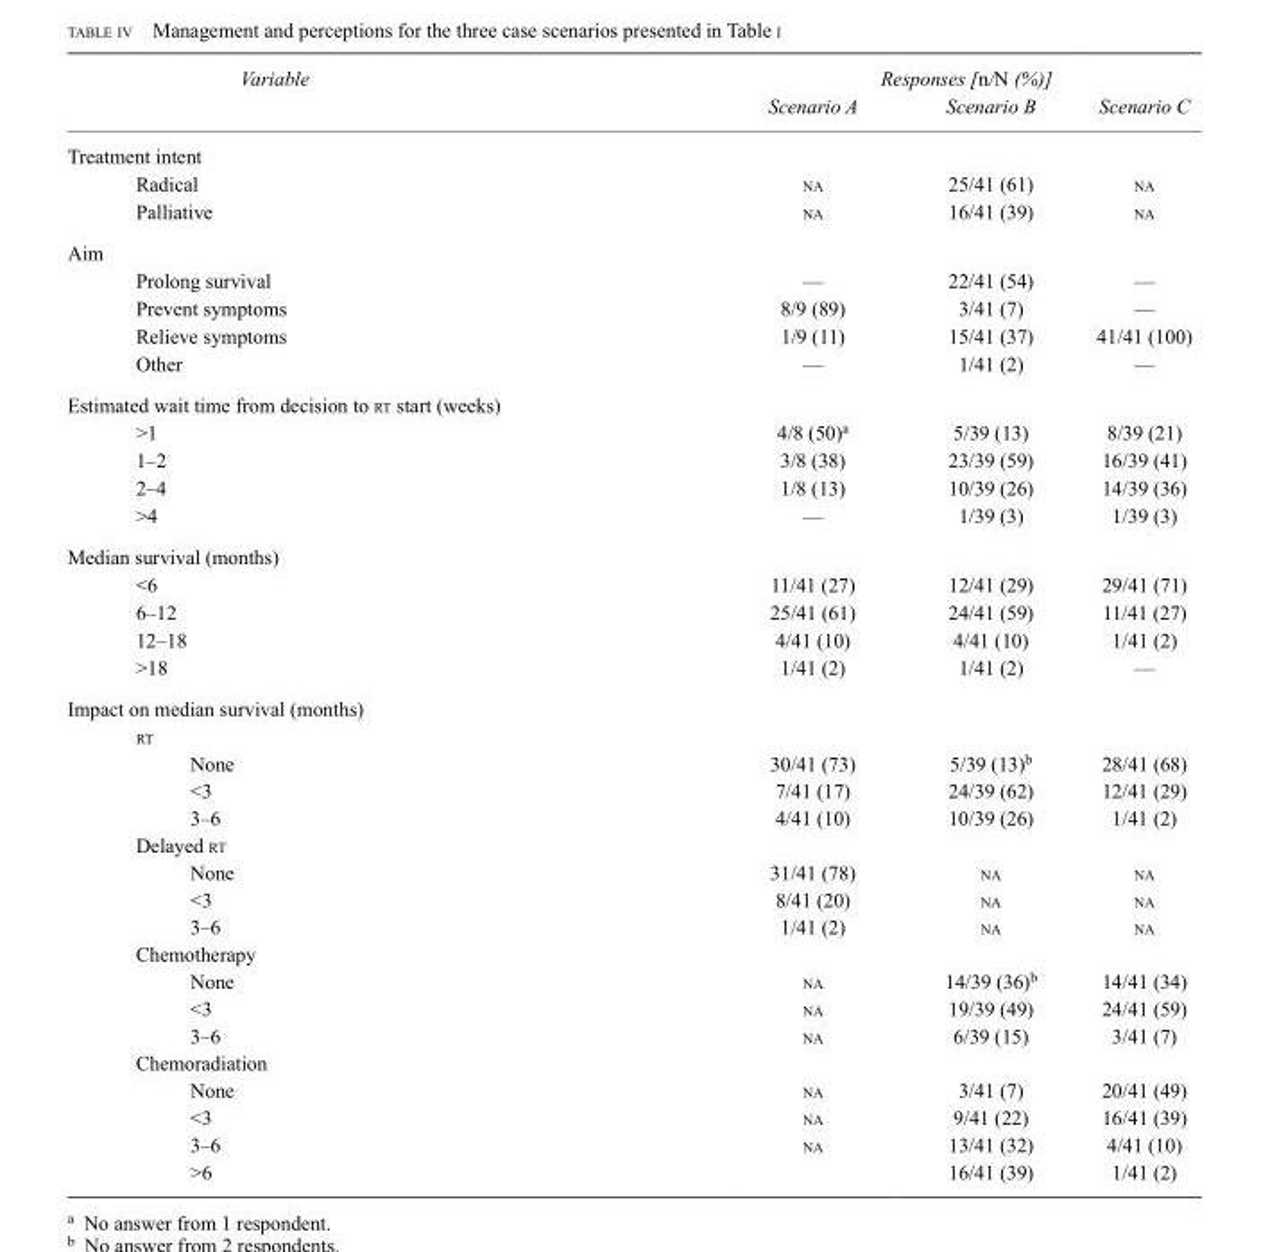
<table><thead><tr><td rowspan="2">Variable</td><td colspan="3">Responses [n/N (%)]</td></tr><tr><td>Scenario A</td><td>Scenario B</td><td>Scenario C</td></tr></thead><tbody><tr><td colspan="4">Treatment intent</td></tr><tr><td>Radical</td><td>na</td><td>25/41 (61)</td><td>na</td></tr><tr><td>Palliative</td><td>na</td><td>16/41 (39)</td><td>na</td></tr><tr><td colspan="4">Aim</td></tr><tr><td>Prolong survival</td><td>—</td><td>22/41 (54)</td><td>—</td></tr><tr><td>Prevent symptoms</td><td>8/9 (89)</td><td>3/41 (7)</td><td>—</td></tr><tr><td>Relieve symptoms</td><td>1/9 (11)</td><td>15/41 (37)</td><td>41/41 (100)</td></tr><tr><td>Other</td><td>—</td><td>1/41 (2)</td><td>—</td></tr><tr><td colspan="4">Estimated wait time from decision to rt start (weeks)</td></tr><tr><td>&gt;1</td><td>4/8 (50)<sup>a</sup></td><td>5/39 (13)</td><td>8/39 (21)</td></tr><tr><td>1–2</td><td>3/8 (38)</td><td>23/39 (59)</td><td>16/39 (41)</td></tr><tr><td>2–4</td><td>1/8 (13)</td><td>10/39 (26)</td><td>14/39 (36)</td></tr><tr><td>&gt;4</td><td>—</td><td>1/39 (3)</td><td>1/39 (3)</td></tr><tr><td colspan="4">Median survival (months)</td></tr><tr><td>&lt;6</td><td>11/41 (27)</td><td>12/41 (29)</td><td>29/41 (71)</td></tr><tr><td>6–12</td><td>25/41 (61)</td><td>24/41 (59)</td><td>11/41 (27)</td></tr><tr><td>12–18</td><td>4/41 (10)</td><td>4/41 (10)</td><td>1/41 (2)</td></tr><tr><td>&gt;18</td><td>1/41 (2)</td><td>1/41 (2)</td><td>—</td></tr><tr><td colspan="4">Impact on median survival (months)</td></tr><tr><td colspan="4">rt</td></tr><tr><td>None</td><td>30/41 (73)</td><td>5/39 (13)<sup>b</sup></td><td>28/41 (68)</td></tr><tr><td>&lt;3</td><td>7/41 (17)</td><td>24/39 (62)</td><td>12/41 (29)</td></tr><tr><td>3–6</td><td>4/41 (10)</td><td>10/39 (26)</td><td>1/41 (2)</td></tr><tr><td colspan="4">Delayed rt</td></tr><tr><td>None</td><td>31/41 (78)</td><td>na</td><td>na</td></tr><tr><td>&lt;3</td><td>8/41 (20)</td><td>na</td><td>na</td></tr><tr><td>3–6</td><td>1/41 (2)</td><td>na</td><td>na</td></tr><tr><td colspan="4">Chemotherapy</td></tr><tr><td>None</td><td>na</td><td>14/39 (36)<sup>b</sup></td><td>14/41 (34)</td></tr><tr><td>&lt;3</td><td>na</td><td>19/39 (49)</td><td>24/41 (59)</td></tr><tr><td>3–6</td><td>na</td><td>6/39 (15)</td><td>3/41 (7)</td></tr><tr><td colspan="4">Chemoradiation</td></tr><tr><td>None</td><td>na</td><td>3/41 (7)</td><td>20/41 (49)</td></tr><tr><td>&lt;3</td><td>na</td><td>9/41 (22)</td><td>16/41 (39)</td></tr><tr><td>3–6</td><td>na</td><td>13/41 (32)</td><td>4/41 (10)</td></tr><tr><td>&gt;6</td><td></td><td>16/41 (39)</td><td>1/41 (2)</td></tr></tbody></table>